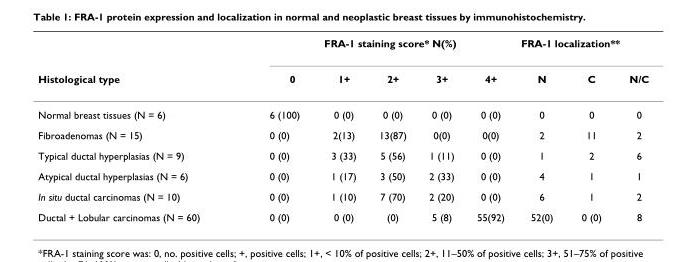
<table><thead><tr><td rowspan="2">Histological type</td><td colspan="5">FRA-1 staining score* N(%)</td><td colspan="3">FRA-1 localization**</td></tr><tr><td>0</td><td>1+</td><td>2+</td><td>3+</td><td>4+</td><td>N</td><td>C</td><td>N/C</td></tr></thead><tbody><tr><td>Normal breast tissues (N = 6)</td><td>6 (100)</td><td>0 (0)</td><td>0 (0)</td><td>0 (0)</td><td>0 (0)</td><td>0</td><td>0</td><td>0</td></tr><tr><td>Fibroadenomas (N = 15)</td><td>0 (0)</td><td>2(13)</td><td>13(87)</td><td>0(0)</td><td>0(0)</td><td>2</td><td>11</td><td>2</td></tr><tr><td>Typical ductal hyperplasias (N = 9)</td><td>0 (0)</td><td>3 (33)</td><td>5 (56)</td><td>1 (11)</td><td>0 (0)</td><td>1</td><td>2</td><td>6</td></tr><tr><td>Atypical ductal hyperplasias (N = 6)</td><td>0 (0)</td><td>1 (17)</td><td>3 (50)</td><td>2 (33)</td><td>0 (0)</td><td>4</td><td>1</td><td>1</td></tr><tr><td>In situ ductal carcinomas (N = 10)</td><td>0 (0)</td><td>1 (10)</td><td>7 (70)</td><td>2 (20)</td><td>0 (0)</td><td>6</td><td>1</td><td>2</td></tr><tr><td>Ductal + Lobular carcinomas (N = 60)</td><td>0 (0)</td><td>0 (0)</td><td>(0)</td><td>5 (8)</td><td>55(92)</td><td>52(0)</td><td>0 (0)</td><td>8</td></tr></tbody></table>